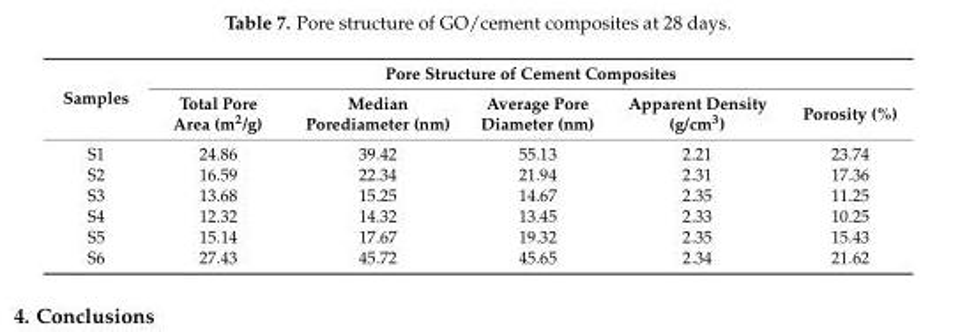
<table><thead><tr><td rowspan="2">Samples</td><td colspan="5">Pore Structure of Cement Composites</td></tr><tr><td>Total Pore Area (m<sup>2</sup>/g)</td><td>Median Porediameter (nm)</td><td>Average Pore Diameter (nm)</td><td>Apparent Density (g/cm<sup>3</sup>)</td><td>Porosity (%)</td></tr></thead><tbody><tr><td>S1</td><td>24.86</td><td>39.42</td><td>55.13</td><td>2.21</td><td>23.74</td></tr><tr><td>S2</td><td>16.59</td><td>22.34</td><td>21.94</td><td>2.31</td><td>17.36</td></tr><tr><td>S3</td><td>13.68</td><td>15.25</td><td>14.67</td><td>2.35</td><td>11.25</td></tr><tr><td>S4</td><td>12.32</td><td>14.32</td><td>13.45</td><td>2.33</td><td>10.25</td></tr><tr><td>S5</td><td>15.14</td><td>17.67</td><td>19.32</td><td>2.35</td><td>15.43</td></tr><tr><td>S6</td><td>27.43</td><td>45.72</td><td>45.65</td><td>2.34</td><td>21.62</td></tr></tbody></table>